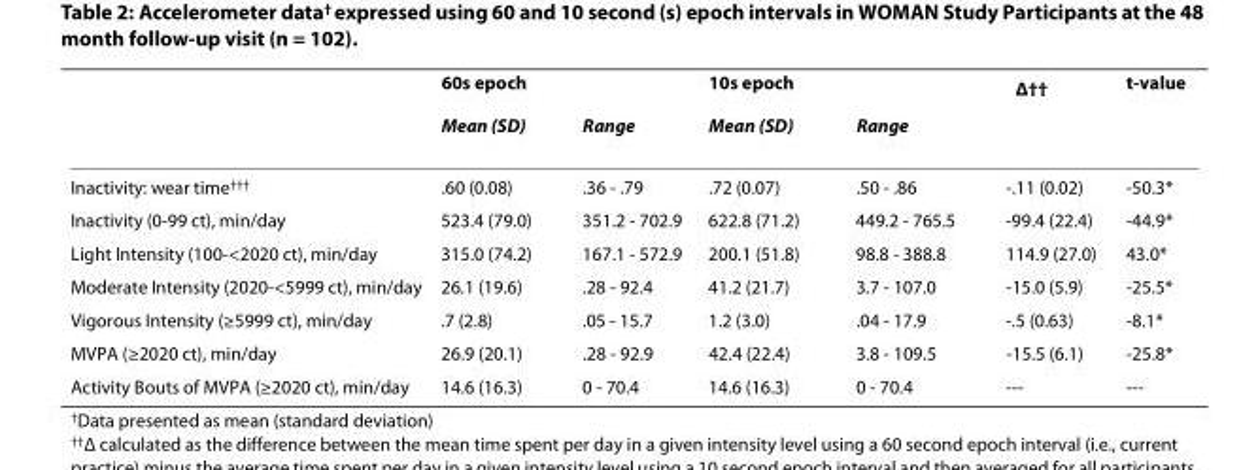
<table><thead><tr><td rowspan="2"></td><td colspan="2">60s epoch</td><td colspan="2">10s epoch</td><td rowspan="2">Δ<sup>††</sup></td><td rowspan="2">t-value</td></tr><tr><td>Mean (SD)</td><td>Range</td><td>Mean (SD)</td><td>Range</td></tr></thead><tbody><tr><td>Inactivity: wear time<sup>†††</sup></td><td>.60 (0.08)</td><td>.36 - .79</td><td>.72 (0.07)</td><td>.50 - .86</td><td>-.11 (0.02)</td><td>-50.3*</td></tr><tr><td>Inactivity (0-99 ct), min/day</td><td>523.4 (79.0)</td><td>351.2 - 702.9</td><td>622.8 (71.2)</td><td>449.2 - 765.5</td><td>-99.4 (22.4)</td><td>-44.9*</td></tr><tr><td>Light Intensity (100-&lt;2020 ct), min/day</td><td>315.0 (74.2)</td><td>167.1 - 572.9</td><td>200.1 (51.8)</td><td>98.8 - 388.8</td><td>114.9 (27.0)</td><td>43.0*</td></tr><tr><td>Moderate Intensity (2020-&lt;5999 ct), min/day</td><td>26.1 (19.6)</td><td>.28 - 92.4</td><td>41.2 (21.7)</td><td>3.7 - 107.0</td><td>-15.0 (5.9)</td><td>-25.5*</td></tr><tr><td>Vigorous Intensity (≥5999 ct), min/day</td><td>.7 (2.8)</td><td>.05 - 15.7</td><td>1.2 (3.0)</td><td>.04 - 17.9</td><td>-.5 (0.63)</td><td>-8.1*</td></tr><tr><td>MVPA (≥2020 ct), min/day</td><td>26.9 (20.1)</td><td>.28 - 92.9</td><td>42.4 (22.4)</td><td>3.8 - 109.5</td><td>-15.5 (6.1)</td><td>-25.8*</td></tr><tr><td>Activity Bouts of MVPA (≥2020 ct), min/day</td><td>14.6 (16.3)</td><td>0 - 70.4</td><td>14.6 (16.3)</td><td>0 - 70.4</td><td>---</td><td>---</td></tr></tbody></table>